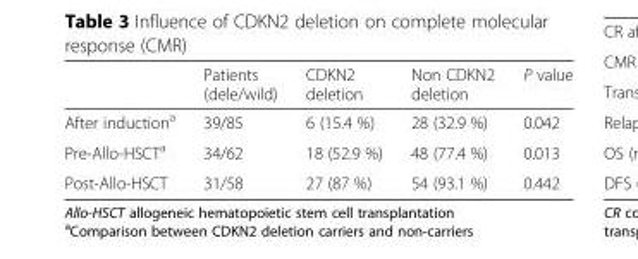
<table><thead><tr><td></td><td>Patients (dele/wild)</td><td>CDKN2 deletion</td><td>Non CDKN2 deletion</td><td>P value</td></tr></thead><tbody><tr><td>After induction<sup>a</sup></td><td>39/85</td><td>6 (15.4 %)</td><td>28 (32.9 %)</td><td>0.042</td></tr><tr><td>Pre-Allo-HSCT<sup>a</sup></td><td>34/62</td><td>18 (52.9 %)</td><td>48 (77.4 %)</td><td>0.013</td></tr><tr><td>Post-Allo-HSCT</td><td>31/58</td><td>27 (87 %)</td><td>54 (93.1 %)</td><td>0.442</td></tr></tbody></table>